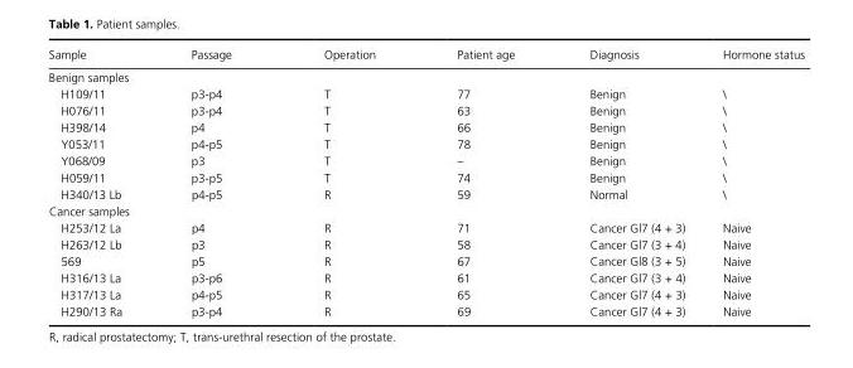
<table><thead><tr><td>Sample</td><td>Passage</td><td>Operation</td><td>Patient age</td><td>Diagnosis</td><td>Hormone status</td></tr></thead><tbody><tr><td colspan="6">Benign samples</td></tr><tr><td>H109/11</td><td>p3- p4</td><td>T</td><td>77</td><td>Benign</td><td>\</td></tr><tr><td>H076/11</td><td>p3- p4</td><td>T</td><td>63</td><td>Benign</td><td>\</td></tr><tr><td>H398/14</td><td>p4</td><td>T</td><td>66</td><td>Benign</td><td>\</td></tr><tr><td>Y053/11</td><td>p4- p5</td><td>T</td><td>78</td><td>Benign</td><td>\</td></tr><tr><td>Y068/09</td><td>p3</td><td>T</td><td>–</td><td>Benign</td><td>\</td></tr><tr><td>H059/11</td><td>p3- p5</td><td>T</td><td>74</td><td>Benign</td><td>\</td></tr><tr><td>H340/13 Lb</td><td>p4- p5</td><td>R</td><td>59</td><td>Normal</td><td>\</td></tr><tr><td colspan="6">Cancer samples</td></tr><tr><td>H253/12 La</td><td>p4</td><td>R</td><td>71</td><td>Cancer Gl7 (4 + 3)</td><td>Naive</td></tr><tr><td>H263/12 Lb</td><td>p3</td><td>R</td><td>58</td><td>Cancer Gl7 (3 + 4)</td><td>Naive</td></tr><tr><td>569</td><td>p5</td><td>R</td><td>67</td><td>Cancer Gl8 (3 + 5)</td><td>Naive</td></tr><tr><td>H316/13 La</td><td>p3- p6</td><td>R</td><td>61</td><td>Cancer Gl7 (3 + 4)</td><td>Naive</td></tr><tr><td>H317/13 La</td><td>p4- p5</td><td>R</td><td>65</td><td>Cancer Gl7 (4 + 3)</td><td>Naive</td></tr><tr><td>H290/13 Ra</td><td>p3- p4</td><td>R</td><td>69</td><td>Cancer Gl7 (4 + 3)</td><td>Naive</td></tr></tbody></table>